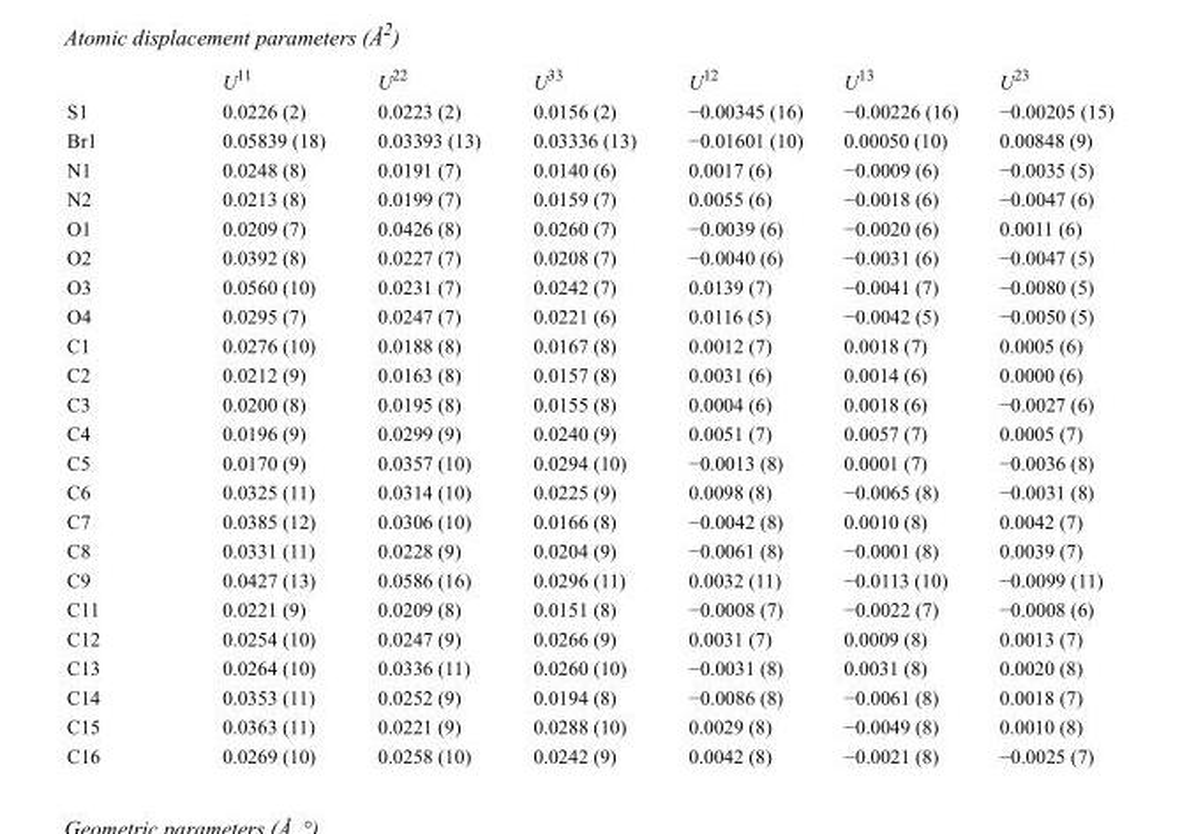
<table><thead><tr><td></td><td>U<sup>11</sup></td><td>U<sup>22</sup></td><td>U<sup>33</sup></td><td>U<sup>12</sup></td><td>U<sup>13</sup></td><td>U<sup>23</sup></td></tr></thead><tbody><tr><td>S1</td><td>0.0226 (2)</td><td>0.0223 (2)</td><td>0.0156 (2)</td><td>−0.00345 (16)</td><td>−0.00226 (16)</td><td>−0.00205 (15)</td></tr><tr><td>Br1</td><td>0.05839 (18)</td><td>0.03393 (13)</td><td>0.03336 (13)</td><td>−0.01601 (10)</td><td>0.00050 (10)</td><td>0.00848 (9)</td></tr><tr><td>N1</td><td>0.0248 (8)</td><td>0.0191 (7)</td><td>0.0140 (6)</td><td>0.0017 (6)</td><td>−0.0009 (6)</td><td>−0.0035 (5)</td></tr><tr><td>N2</td><td>0.0213 (8)</td><td>0.0199 (7)</td><td>0.0159 (7)</td><td>0.0055 (6)</td><td>−0.0018 (6)</td><td>−0.0047 (6)</td></tr><tr><td>O1</td><td>0.0209 (7)</td><td>0.0426 (8)</td><td>0.0260 (7)</td><td>−0.0039 (6)</td><td>−0.0020 (6)</td><td>0.0011 (6)</td></tr><tr><td>O2</td><td>0.0392 (8)</td><td>0.0227 (7)</td><td>0.0208 (7)</td><td>−0.0040 (6)</td><td>−0.0031 (6)</td><td>−0.0047 (5)</td></tr><tr><td>O3</td><td>0.0560 (10)</td><td>0.0231 (7)</td><td>0.0242 (7)</td><td>0.0139 (7)</td><td>−0.0041 (7)</td><td>−0.0080 (5)</td></tr><tr><td>O4</td><td>0.0295 (7)</td><td>0.0247 (7)</td><td>0.0221 (6)</td><td>0.0116 (5)</td><td>−0.0042 (5)</td><td>−0.0050 (5)</td></tr><tr><td>C1</td><td>0.0276 (10)</td><td>0.0188 (8)</td><td>0.0167 (8)</td><td>0.0012 (7)</td><td>0.0018 (7)</td><td>0.0005 (6)</td></tr><tr><td>C2</td><td>0.0212 (9)</td><td>0.0163 (8)</td><td>0.0157 (8)</td><td>0.0031 (6)</td><td>0.0014 (6)</td><td>0.0000 (6)</td></tr><tr><td>C3</td><td>0.0200 (8)</td><td>0.0195 (8)</td><td>0.0155 (8)</td><td>0.0004 (6)</td><td>0.0018 (6)</td><td>−0.0027 (6)</td></tr><tr><td>C4</td><td>0.0196 (9)</td><td>0.0299 (9)</td><td>0.0240 (9)</td><td>0.0051 (7)</td><td>0.0057 (7)</td><td>0.0005 (7)</td></tr><tr><td>C5</td><td>0.0170 (9)</td><td>0.0357 (10)</td><td>0.0294 (10)</td><td>−0.0013 (8)</td><td>0.0001 (7)</td><td>−0.0036 (8)</td></tr><tr><td>C6</td><td>0.0325 (11)</td><td>0.0314 (10)</td><td>0.0225 (9)</td><td>0.0098 (8)</td><td>−0.0065 (8)</td><td>−0.0031 (8)</td></tr><tr><td>C7</td><td>0.0385 (12)</td><td>0.0306 (10)</td><td>0.0166 (8)</td><td>−0.0042 (8)</td><td>0.0010 (8)</td><td>0.0042 (7)</td></tr><tr><td>C8</td><td>0.0331 (11)</td><td>0.0228 (9)</td><td>0.0204 (9)</td><td>−0.0061 (8)</td><td>−0.0001 (8)</td><td>0.0039 (7)</td></tr><tr><td>C9</td><td>0.0427 (13)</td><td>0.0586 (16)</td><td>0.0296 (11)</td><td>0.0032 (11)</td><td>−0.0113 (10)</td><td>−0.0099 (11)</td></tr><tr><td>C11</td><td>0.0221 (9)</td><td>0.0209 (8)</td><td>0.0151 (8)</td><td>−0.0008 (7)</td><td>−0.0022 (7)</td><td>−0.0008 (6)</td></tr><tr><td>C12</td><td>0.0254 (10)</td><td>0.0247 (9)</td><td>0.0266 (9)</td><td>0.0031 (7)</td><td>0.0009 (8)</td><td>0.0013 (7)</td></tr><tr><td>C13</td><td>0.0264 (10)</td><td>0.0336 (11)</td><td>0.0260 (10)</td><td>−0.0031 (8)</td><td>0.0031 (8)</td><td>0.0020 (8)</td></tr><tr><td>C14</td><td>0.0353 (11)</td><td>0.0252 (9)</td><td>0.0194 (8)</td><td>−0.0086 (8)</td><td>−0.0061 (8)</td><td>0.0018 (7)</td></tr><tr><td>C15</td><td>0.0363 (11)</td><td>0.0221 (9)</td><td>0.0288 (10)</td><td>0.0029 (8)</td><td>−0.0049 (8)</td><td>0.0010 (8)</td></tr><tr><td>C16</td><td>0.0269 (10)</td><td>0.0258 (10)</td><td>0.0242 (9)</td><td>0.0042 (8)</td><td>−0.0021 (8)</td><td>−0.0025 (7)</td></tr></tbody></table>